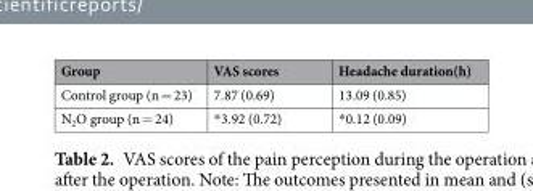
<table><thead><tr><td>Group</td><td>VAS scores</td><td>Headache duration(h)</td></tr></thead><tbody><tr><td>Control group (n = 23)</td><td>7.87 (0.69)</td><td>13.09 (0.85)</td></tr><tr><td>N<sub>2</sub>O group (n = 24)</td><td>*3.92 (0.72)</td><td>*0.12 (0.09)</td></tr></tbody></table>